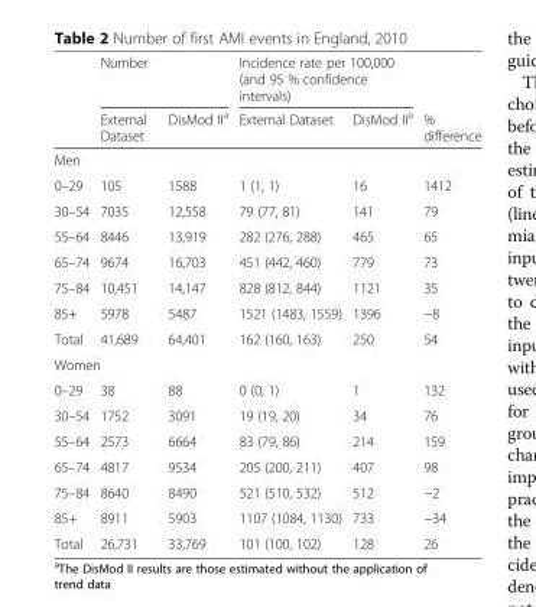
<table><thead><tr><td rowspan="2"></td><td colspan="2">Number</td><td colspan="2">Incidence rate per 100,000 (and 95 % confidence intervals)</td><td rowspan="2">% difference</td></tr><tr><td>External Dataset</td><td>DisMod II<sup>a</sup></td><td>External Dataset</td><td>DisMod II<sup>a</sup></td></tr></thead><tbody><tr><td colspan="6">Men</td></tr><tr><td>0–29</td><td>105</td><td>1588</td><td>1 (1, 1)</td><td>16</td><td>1412</td></tr><tr><td>30–54</td><td>7035</td><td>12,558</td><td>79 (77, 81)</td><td>141</td><td>79</td></tr><tr><td>55–64</td><td>8446</td><td>13,919</td><td>282 (276, 288)</td><td>465</td><td>65</td></tr><tr><td>65–74</td><td>9674</td><td>16,703</td><td>451 (442, 460)</td><td>779</td><td>73</td></tr><tr><td>75–84</td><td>10,451</td><td>14,147</td><td>828 (812, 844)</td><td>1121</td><td>35</td></tr><tr><td>85+</td><td>5978</td><td>5487</td><td>1521 (1483, 1559)</td><td>1396</td><td>−8</td></tr><tr><td>Total</td><td>41,689</td><td>64,401</td><td>162 (160, 163)</td><td>250</td><td>54</td></tr><tr><td colspan="6">Women</td></tr><tr><td>0–29</td><td>38</td><td>88</td><td>0 (0, 1)</td><td>1</td><td>132</td></tr><tr><td>30–54</td><td>1752</td><td>3091</td><td>19 (19, 20)</td><td>34</td><td>76</td></tr><tr><td>55–64</td><td>2573</td><td>6664</td><td>83 (79, 86)</td><td>214</td><td>159</td></tr><tr><td>65–74</td><td>4817</td><td>9534</td><td>205 (200, 211)</td><td>407</td><td>98</td></tr><tr><td>75–84</td><td>8640</td><td>8490</td><td>521 (510, 532)</td><td>512</td><td>−2</td></tr><tr><td>85+</td><td>8911</td><td>5903</td><td>1107 (1084, 1130)</td><td>733</td><td>−34</td></tr><tr><td>Total</td><td>26,731</td><td>33,769</td><td>101 (100, 102)</td><td>128</td><td>26</td></tr></tbody></table>